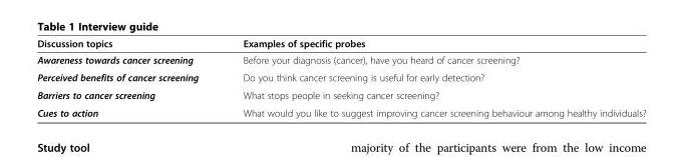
<table><thead><tr><td>Discussion topics</td><td>Examples of specific probes</td></tr></thead><tbody><tr><td>Awareness towards cancer screening</td><td>Before your diagnosis (cancer), have you heard of cancer screening?</td></tr><tr><td>Perceived benefits of cancer screening</td><td>Do you think cancer screening is useful for early detection?</td></tr><tr><td>Barriers to cancer screening</td><td>What stops people in seeking cancer screening?</td></tr><tr><td>Cues to action</td><td>What would you like to suggest improving cancer screening behaviour among healthy individuals?</td></tr></tbody></table>